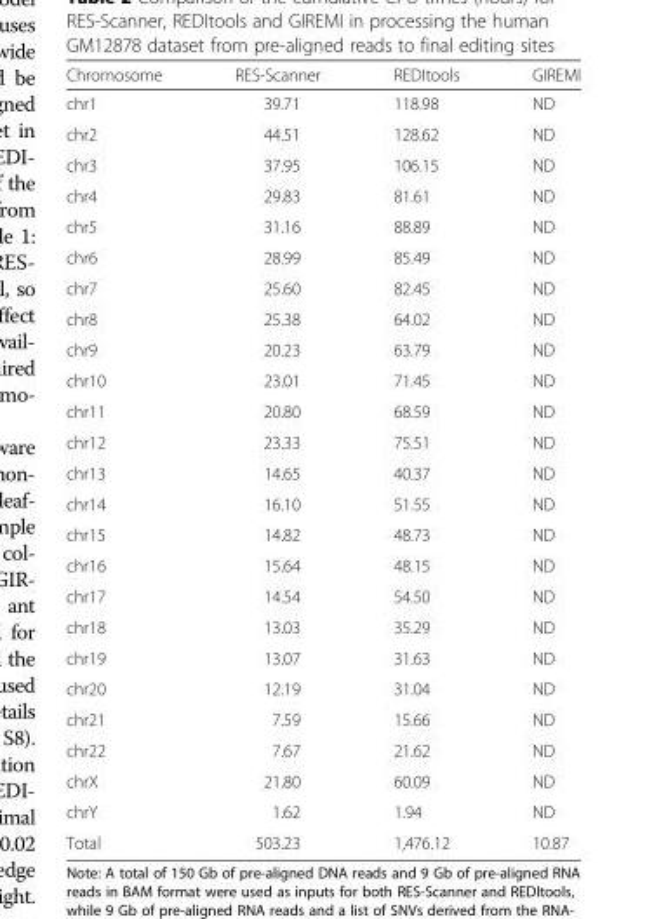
<table><thead><tr><td>Chromosome</td><td>RES-Scanner</td><td>REDItools</td><td>GIREMI</td></tr></thead><tbody><tr><td>chr1</td><td>39.71</td><td>118.98</td><td>ND</td></tr><tr><td>chr2</td><td>44.51</td><td>128.62</td><td>ND</td></tr><tr><td>chr3</td><td>37.95</td><td>106.15</td><td>ND</td></tr><tr><td>chr4</td><td>29.83</td><td>81.61</td><td>ND</td></tr><tr><td>chr5</td><td>31.16</td><td>88.89</td><td>ND</td></tr><tr><td>chr6</td><td>28.99</td><td>85.49</td><td>ND</td></tr><tr><td>chr7</td><td>25.60</td><td>82.45</td><td>ND</td></tr><tr><td>chr8</td><td>25.38</td><td>64.02</td><td>ND</td></tr><tr><td>chr9</td><td>20.23</td><td>63.79</td><td>ND</td></tr><tr><td>chr10</td><td>23.01</td><td>71.45</td><td>ND</td></tr><tr><td>chr11</td><td>20.80</td><td>68.59</td><td>ND</td></tr><tr><td>chr12</td><td>23.33</td><td>75.51</td><td>ND</td></tr><tr><td>chr13</td><td>14.65</td><td>40.37</td><td>ND</td></tr><tr><td>chr14</td><td>16.10</td><td>51.55</td><td>ND</td></tr><tr><td>chr15</td><td>14.82</td><td>48.73</td><td>ND</td></tr><tr><td>chr16</td><td>15.64</td><td>48.15</td><td>ND</td></tr><tr><td>chr17</td><td>14.54</td><td>54.50</td><td>ND</td></tr><tr><td>chr18</td><td>13.03</td><td>35.29</td><td>ND</td></tr><tr><td>chr19</td><td>13.07</td><td>31.63</td><td>ND</td></tr><tr><td>chr20</td><td>12.19</td><td>31.04</td><td>ND</td></tr><tr><td>chr21</td><td>7.59</td><td>15.66</td><td>ND</td></tr><tr><td>chr22</td><td>7.67</td><td>21.62</td><td>ND</td></tr><tr><td>chrX</td><td>21.80</td><td>60.09</td><td>ND</td></tr><tr><td>chrY</td><td>1.62</td><td>1.94</td><td>ND</td></tr><tr><td>Total</td><td>503.23</td><td>1,476.12</td><td>10.87</td></tr></tbody></table>